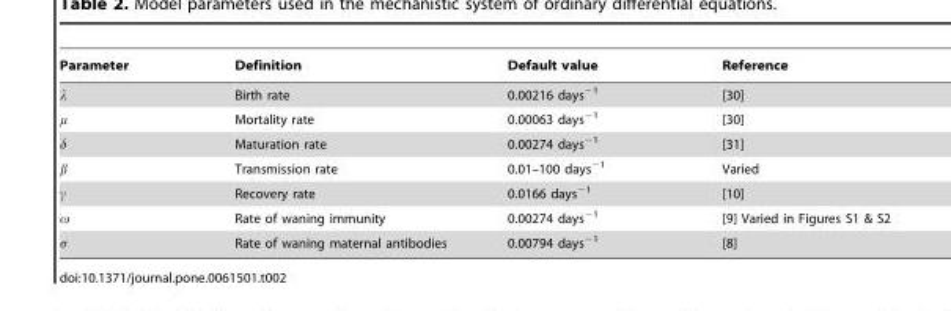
<table><thead><tr><td>Parameter</td><td>Definition</td><td>Default value</td><td>Reference</td></tr></thead><tbody><tr><td>λ</td><td>Birth rate</td><td>0.00216 days<sup>−1</sup></td><td>[30]</td></tr><tr><td>μ</td><td>Mortality rate</td><td>0.00063 days<sup>−1</sup></td><td>[30]</td></tr><tr><td>δ</td><td>Maturation rate</td><td>0.00274 days<sup>−1</sup></td><td>[31]</td></tr><tr><td>β</td><td>Transmission rate</td><td>0.01–100 days<sup>−1</sup></td><td>Varied</td></tr><tr><td>γ</td><td>Recovery rate</td><td>0.0166 days<sup>−1</sup></td><td>[10]</td></tr><tr><td>ω</td><td>Rate of waning immunity</td><td>0.00274 days<sup>−1</sup></td><td>[9] Varied in Figures S1 &amp; S2</td></tr><tr><td>σ</td><td>Rate of waning maternal antibodies</td><td>0.00794 days<sup>−1</sup></td><td>[8]</td></tr></tbody></table>